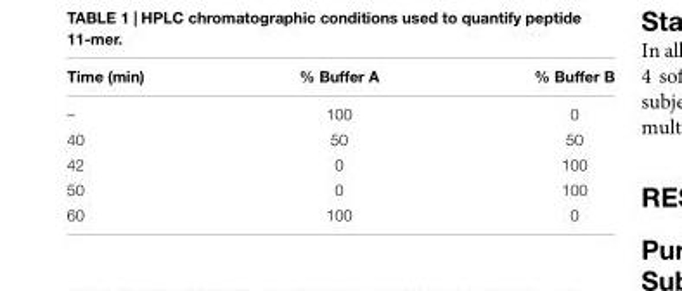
<table><thead><tr><td>Time (min)</td><td>% Buffer A</td><td>% Buffer B</td></tr></thead><tbody><tr><td>–</td><td>100</td><td>0</td></tr><tr><td>40</td><td>50</td><td>50</td></tr><tr><td>42</td><td>0</td><td>100</td></tr><tr><td>50</td><td>0</td><td>100</td></tr><tr><td>60</td><td>100</td><td>0</td></tr></tbody></table>